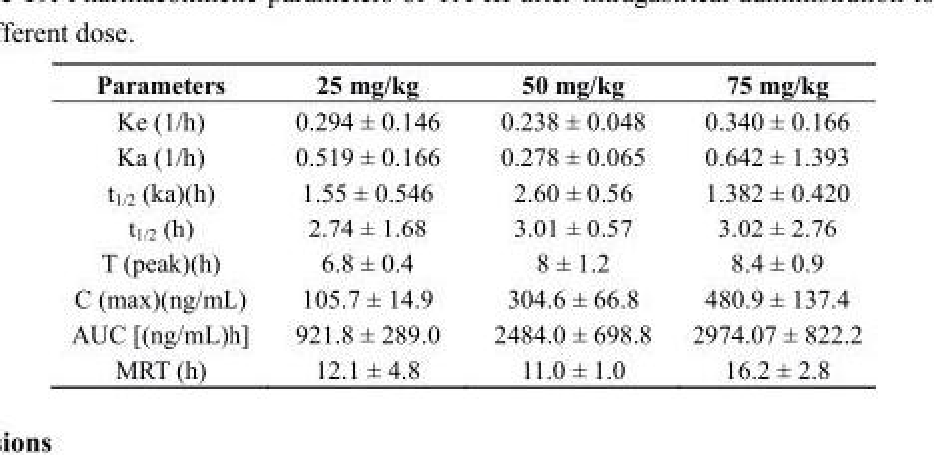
<table><thead><tr><td>Parameters</td><td>25 mg/kg</td><td>50 mg/kg</td><td>75 mg/kg</td></tr></thead><tbody><tr><td>Ke (1/h)</td><td>0.294 ± 0.146</td><td>0.238 ± 0.048</td><td>0.340 ± 0.166</td></tr><tr><td>Ka (1/h)</td><td>0.519 ± 0.166</td><td>0.278 ± 0.065</td><td>0.642 ± 1.393</td></tr><tr><td>t<sub>1/2</sub> (ka)(h)</td><td>1.55 ± 0.546</td><td>2.60 ± 0.56</td><td>1.382 ± 0.420</td></tr><tr><td>t<sub>1/2</sub> (h)</td><td>2.74 ± 1.68</td><td>3.01 ± 0.57</td><td>3.02 ± 2.76</td></tr><tr><td>T (peak)(h)</td><td>6.8 ± 0.4</td><td>8 ± 1.2</td><td>8.4 ± 0.9</td></tr><tr><td>C (max)(ng/mL)</td><td>105.7 ± 14.9</td><td>304.6 ± 66.8</td><td>480.9 ± 137.4</td></tr><tr><td>AUC [(ng/mL)h]</td><td>921.8 ± 289.0</td><td>2484.0 ± 698.8</td><td>2974.07 ± 822.2</td></tr><tr><td>MRT (h)</td><td>12.1 ± 4.8</td><td>11.0 ± 1.0</td><td>16.2 ± 2.8</td></tr></tbody></table>